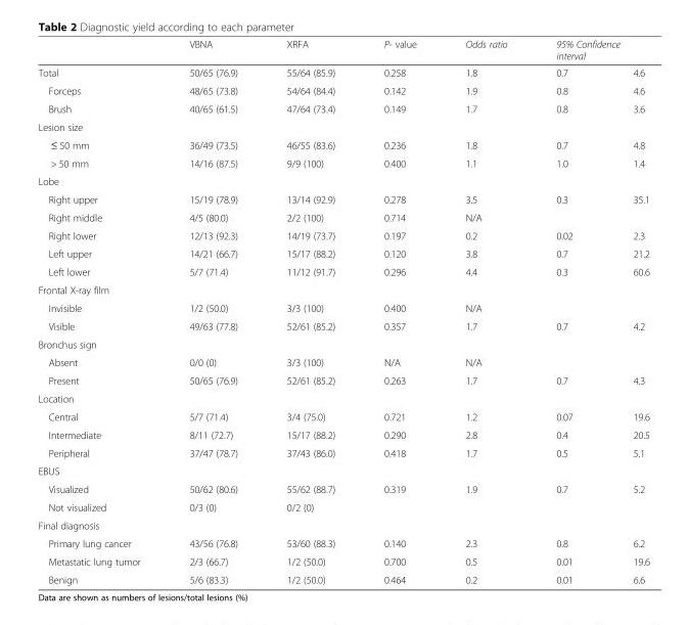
<table><thead><tr><td rowspan="2">Total</td><td rowspan="2">VBNA 50/65 (76.9)</td><td rowspan="2">XRFA 55/64 (85.9)</td><td rowspan="2">P- value 0.258</td><td rowspan="2">Odds ratio 1.8</td><td colspan="2">95% Confidence interval</td></tr><tr><td>0.7</td><td>4.6</td></tr></thead><tbody><tr><td>Forceps</td><td>48/65 (73.8)</td><td>54/64 (84.4)</td><td>0.142</td><td>1.9</td><td>0.8</td><td>4.6</td></tr><tr><td>Brush</td><td>40/65 (61.5)</td><td>47/64 (73.4)</td><td>0.149</td><td>1.7</td><td>0.8</td><td>3.6</td></tr><tr><td colspan="7">Lesion size</td></tr><tr><td>≤ 50 mm</td><td>36/49 (73.5)</td><td>46/55 (83.6)</td><td>0.236</td><td>1.8</td><td>0.7</td><td>4.8</td></tr><tr><td>&gt; 50 mm</td><td>14/16 (87.5)</td><td>9/9 (100)</td><td>0.400</td><td>1.1</td><td>1.0</td><td>1.4</td></tr><tr><td colspan="7">Lobe</td></tr><tr><td>Right upper</td><td>15/19 (78.9)</td><td>13/14 (92.9)</td><td>0.278</td><td>3.5</td><td>0.3</td><td>35.1</td></tr><tr><td>Right middle</td><td>4/5 (80.0)</td><td>2/2 (100)</td><td>0.714</td><td>N/A</td><td></td><td></td></tr><tr><td>Right lower</td><td>12/13 (92.3)</td><td>14/19 (73.7)</td><td>0.197</td><td>0.2</td><td>0.02</td><td>2.3</td></tr><tr><td>Left upper</td><td>14/21 (66.7)</td><td>15/17 (88.2)</td><td>0.120</td><td>3.8</td><td>0.7</td><td>21.2</td></tr><tr><td>Left lower</td><td>5/7 (71.4)</td><td>11/12 (91.7)</td><td>0.296</td><td>4.4</td><td>0.3</td><td>60.6</td></tr><tr><td colspan="7">Frontal X-ray film</td></tr><tr><td>Invisible</td><td>1/2 (50.0)</td><td>3/3 (100)</td><td>0.400</td><td>N/A</td><td></td><td></td></tr><tr><td>Visible</td><td>49/63 (77.8)</td><td>52/61 (85.2)</td><td>0.357</td><td>1.7</td><td>0.7</td><td>4.2</td></tr><tr><td colspan="7">Bronchus sign</td></tr><tr><td>Absent</td><td>0/0 (0)</td><td>3/3 (100)</td><td>N/A</td><td>N/A</td><td></td><td></td></tr><tr><td>Present</td><td>50/65 (76.9)</td><td>52/61 (85.2)</td><td>0.263</td><td>1.7</td><td>0.7</td><td>4.3</td></tr><tr><td colspan="7">Location</td></tr><tr><td>Central</td><td>5/7 (71.4)</td><td>3/4 (75.0)</td><td>0.721</td><td>1.2</td><td>0.07</td><td>19.6</td></tr><tr><td>Intermediate</td><td>8/11 (72.7)</td><td>15/17 (88.2)</td><td>0.290</td><td>2.8</td><td>0.4</td><td>20.5</td></tr><tr><td>Peripheral</td><td>37/47 (78.7)</td><td>37/43 (86.0)</td><td>0.418</td><td>1.7</td><td>0.5</td><td>5.1</td></tr><tr><td colspan="7">EBUS</td></tr><tr><td>Visualized</td><td>50/62 (80.6)</td><td>55/62 (88.7)</td><td>0.319</td><td>1.9</td><td>0.7</td><td>5.2</td></tr><tr><td>Not visualized</td><td>0/3 (0)</td><td>0/2 (0)</td><td></td><td></td><td></td><td></td></tr><tr><td colspan="7">Final diagnosis</td></tr><tr><td>Primary lung cancer</td><td>43/56 (76.8)</td><td>53/60 (88.3)</td><td>0.140</td><td>2.3</td><td>0.8</td><td>6.2</td></tr><tr><td>Metastatic lung tumor</td><td>2/3 (66.7)</td><td>1/2 (50.0)</td><td>0.700</td><td>0.5</td><td>0.01</td><td>19.6</td></tr><tr><td>Benign</td><td>5/6 (83.3)</td><td>1/2 (50.0)</td><td>0.464</td><td>0.2</td><td>0.01</td><td>6.6</td></tr></tbody></table>